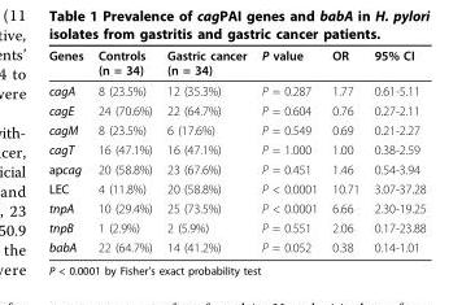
<table><thead><tr><td>Genes</td><td>Controls (n = 34)</td><td>Gastric cancer (n = 34)</td><td>P value</td><td>OR</td><td>95% CI</td></tr></thead><tbody><tr><td>cagA</td><td>8 (23.5%)</td><td>12 (35.3%)</td><td>P = 0.287</td><td>1.77</td><td>0.61-5.11</td></tr><tr><td>cagE</td><td>24 (70.6%)</td><td>22 (64.7%)</td><td>P = 0.604</td><td>0.76</td><td>0.27-2.11</td></tr><tr><td>cagM</td><td>8 (23.5%)</td><td>6 (17.6%)</td><td>P = 0.549</td><td>0.69</td><td>0.21-2.27</td></tr><tr><td>cagT</td><td>16 (47.1%)</td><td>16 (47.1%)</td><td>P = 1.000</td><td>1.00</td><td>0.38-2.59</td></tr><tr><td>apcag</td><td>20 (58.8%)</td><td>23 (67.6%)</td><td>P = 0.451</td><td>1.46</td><td>0.54-3.94</td></tr><tr><td>LEC</td><td>4 (11.8%)</td><td>20 (58.8%)</td><td>P &lt; 0.0001</td><td>10.71</td><td>3.07-37.28</td></tr><tr><td>tnpA</td><td>10 (29.4%)</td><td>25 (73.5%)</td><td>P &lt; 0.0001</td><td>6.66</td><td>2.30-19.25</td></tr><tr><td>tnpB</td><td>1 (2.9%)</td><td>2 (5.9%)</td><td>P = 0.551</td><td>2.06</td><td>0.17-23.88</td></tr><tr><td>babA</td><td>22 (64.7%)</td><td>14 (41.2%)</td><td>P = 0.052</td><td>0.38</td><td>0.14-1.01</td></tr></tbody></table>